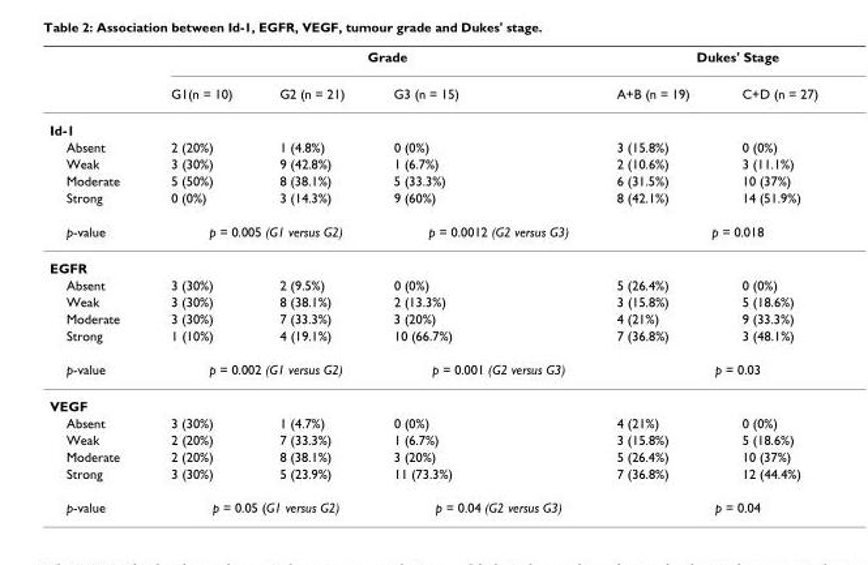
<table><thead><tr><td rowspan="2"></td><td colspan="3">Grade</td><td colspan="2">Dukes&#x27; Stage</td></tr><tr><td>G1(n = 10)</td><td>G2 (n = 21)</td><td>G3 (n = 15)</td><td>A+B (n = 19)</td><td>C+D (n = 27)</td></tr></thead><tbody><tr><td colspan="6">Id-1</td></tr><tr><td>Absent</td><td>2 (20%)</td><td>1 (4.8%)</td><td>0 (0%)</td><td>3 (15.8%)</td><td>0 (0%)</td></tr><tr><td>Weak</td><td>3 (30%)</td><td>9 (42.8%)</td><td>1 (6.7%)</td><td>2 (10.6%)</td><td>3 (11.1%)</td></tr><tr><td>Moderate</td><td>5 (50%)</td><td>8 (38.1%)</td><td>5 (33.3%)</td><td>6 (31.5%)</td><td>10 (37%)</td></tr><tr><td>Strong</td><td>0 (0%)</td><td>3 (14.3%)</td><td>9 (60%)</td><td>8 (42.1%)</td><td>14 (51.9%)</td></tr><tr><td>p-value</td><td colspan="2">p = 0.005 (G1 versus G2)</td><td>p = 0.0012 (G2 versus G3)</td><td colspan="2">p = 0.018</td></tr><tr><td colspan="6">EGFR</td></tr><tr><td>Absent</td><td>3 (30%)</td><td>2 (9.5%)</td><td>0 (0%)</td><td>5 (26.4%)</td><td>0 (0%)</td></tr><tr><td>Weak</td><td>3 (30%)</td><td>8 (38.1%)</td><td>2 (13.3%)</td><td>3 (15.8%)</td><td>5 (18.6%)</td></tr><tr><td>Moderate</td><td>3 (30%)</td><td>7 (33.3%)</td><td>3 (20%)</td><td>4 (21%)</td><td>9 (33.3%)</td></tr><tr><td>Strong</td><td>1 (10%)</td><td>4 (19.1%)</td><td>10 (66.7%)</td><td>7 (36.8%)</td><td>3 (48.1%)</td></tr><tr><td>p-value</td><td colspan="2">p = 0.002 (G1 versus G2)</td><td>p = 0.001 (G2 versus G3)</td><td colspan="2">p = 0.03</td></tr><tr><td colspan="6">VEGF</td></tr><tr><td>Absent</td><td>3 (30%)</td><td>1 (4.7%)</td><td>0 (0%)</td><td>4 (21%)</td><td>0 (0%)</td></tr><tr><td>Weak</td><td>2 (20%)</td><td>7 (33.3%)</td><td>1 (6.7%)</td><td>3 (15.8%)</td><td>5 (18.6%)</td></tr><tr><td>Moderate</td><td>2 (20%)</td><td>8 (38.1%)</td><td>3 (20%)</td><td>5 (26.4%)</td><td>10 (37%)</td></tr><tr><td>Strong</td><td>3 (30%)</td><td>5 (23.9%)</td><td>11 (73.3%)</td><td>7 (36.8%)</td><td>12 (44.4%)</td></tr><tr><td>p-value</td><td colspan="2">p = 0.05 (G1 versus G2)</td><td>p = 0.04 (G2 versus G3)</td><td colspan="2">p = 0.04</td></tr></tbody></table>